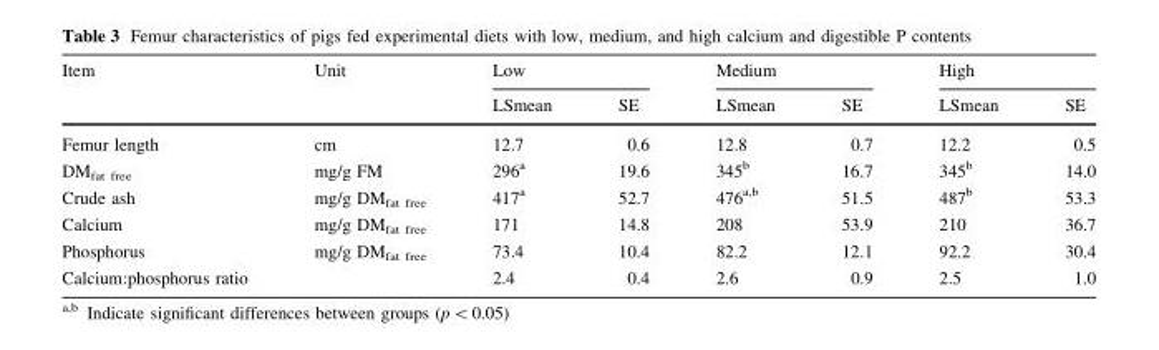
<table><thead><tr><td rowspan="2">Item</td><td rowspan="2">Unit</td><td colspan="2">Low</td><td colspan="2">Medium</td><td colspan="2">High</td></tr><tr><td>LSmean</td><td>SE</td><td>LSmean</td><td>SE</td><td>LSmean</td><td>SE</td></tr></thead><tbody><tr><td>Femur length</td><td>cm</td><td>12.7</td><td>0.6</td><td>12.8</td><td>0.7</td><td>12.2</td><td>0.5</td></tr><tr><td>DM<sub>fat free</sub></td><td>mg/g FM</td><td>296<sup>a</sup></td><td>19.6</td><td>345<sup>b</sup></td><td>16.7</td><td>345<sup>b</sup></td><td>14.0</td></tr><tr><td>Crude ash</td><td>mg/g DM<sub>fat free</sub></td><td>417<sup>a</sup></td><td>52.7</td><td>476<sup>a,b</sup></td><td>51.5</td><td>487<sup>b</sup></td><td>53.3</td></tr><tr><td>Calcium</td><td>mg/g DM<sub>fat free</sub></td><td>171</td><td>14.8</td><td>208</td><td>53.9</td><td>210</td><td>36.7</td></tr><tr><td>Phosphorus</td><td>mg/g DM<sub>fat free</sub></td><td>73.4</td><td>10.4</td><td>82.2</td><td>12.1</td><td>92.2</td><td>30.4</td></tr><tr><td>Calcium:phosphorus ratio</td><td></td><td>2.4</td><td>0.4</td><td>2.6</td><td>0.9</td><td>2.5</td><td>1.0</td></tr></tbody></table>